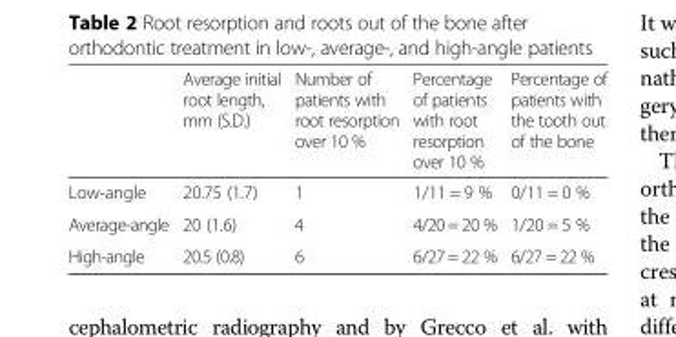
<table><thead><tr><td></td><td>Average initial root length, mm (S.D.)</td><td>Number of patients with root resorption over 10 %</td><td>Percentage of patients with root resorption over 10 %</td><td>Percentage of patients with the tooth out of the bone</td></tr></thead><tbody><tr><td>Low-angle</td><td>20.75 (1.7)</td><td>1</td><td>1/11 = 9 %</td><td>0/11 = 0 %</td></tr><tr><td>Average-angle</td><td>20 (1.6)</td><td>4</td><td>4/20 = 20 %</td><td>1/20 = 5 %</td></tr><tr><td>High-angle</td><td>20.5 (0.8)</td><td>6</td><td>6/27 = 22 %</td><td>6/27 = 22 %</td></tr></tbody></table>